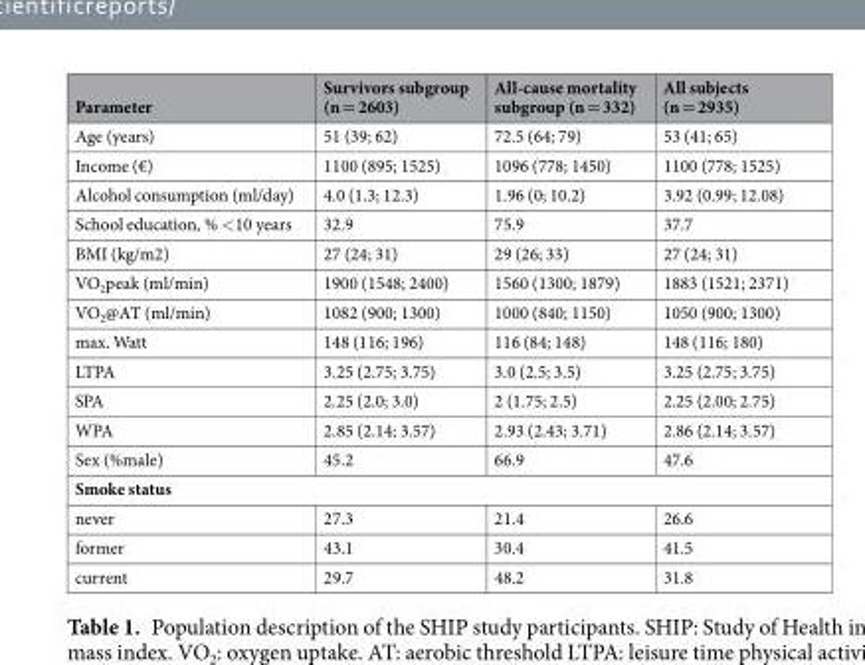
<table><thead><tr><td>Parameter</td><td>Survivors subgroup (n = 2603)</td><td>All-cause mortality subgroup (n = 332)</td><td>All subjects (n = 2935)</td></tr></thead><tbody><tr><td>Age (years)</td><td>51 (39; 62)</td><td>72.5 (64; 79)</td><td>53 (41; 65)</td></tr><tr><td>Income (€)</td><td>1100 (895; 1525)</td><td>1096 (778; 1450)</td><td>1100 (778; 1525)</td></tr><tr><td>Alcohol consumption (ml/day)</td><td>4.0 (1.3; 12.3)</td><td>1.96 (0; 10.2)</td><td>3.92 (0.99; 12.08)</td></tr><tr><td>School education, % &lt;10 years</td><td>32.9</td><td>75.9</td><td>37.7</td></tr><tr><td>BMI (kg/m2)</td><td>27 (24; 31)</td><td>29 (26; 33)</td><td>27 (24; 31)</td></tr><tr><td>VO<sub>2</sub>peak (ml/min)</td><td>1900 (1548; 2400)</td><td>1560 (1300; 1879)</td><td>1883 (1521; 2371)</td></tr><tr><td>VO<sub>2</sub>@AT (ml/min)</td><td>1082 (900; 1300)</td><td>1000 (840; 1150)</td><td>1050 (900; 1300)</td></tr><tr><td>max. Watt</td><td>148 (116; 196)</td><td>116 (84; 148)</td><td>148 (116; 180)</td></tr><tr><td>LTPA</td><td>3.25 (2.75; 3.75)</td><td>3.0 (2.5; 3.5)</td><td>3.25 (2.75; 3.75)</td></tr><tr><td>SPA</td><td>2.25 (2.0; 3.0)</td><td>2 (1.75; 2.5)</td><td>2.25 (2.00; 2.75)</td></tr><tr><td>WPA</td><td>2.85 (2.14; 3.57)</td><td>2.93 (2.43; 3.71)</td><td>2.86 (2.14; 3.57)</td></tr><tr><td>Sex (%male)</td><td>45.2</td><td>66.9</td><td>47.6</td></tr><tr><td colspan="4">Smoke status</td></tr><tr><td>never</td><td>27.3</td><td>21.4</td><td>26.6</td></tr><tr><td>former</td><td>43.1</td><td>30.4</td><td>41.5</td></tr><tr><td>current</td><td>29.7</td><td>48.2</td><td>31.8</td></tr></tbody></table>